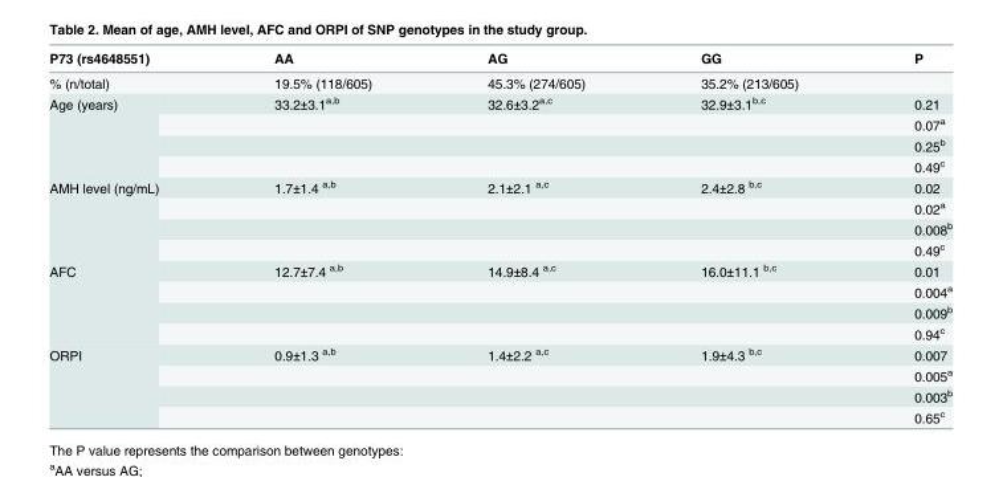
<table><thead><tr><td>P73 (rs4648551)</td><td>AA</td><td>AG</td><td>GG</td><td>P</td></tr></thead><tbody><tr><td>% (n/total)</td><td>19.5% (118/605)</td><td>45.3% (274/605)</td><td>35.2% (213/605)</td><td></td></tr><tr><td rowspan="4">Age (years)</td><td>33.2±3.1<sup>a,b</sup></td><td>32.6±3.2<sup>a,c</sup></td><td>32.9±3.1<sup>b,c</sup></td><td>0.21</td></tr><tr><td></td><td></td><td></td><td>0.07<sup>a</sup></td></tr><tr><td></td><td></td><td></td><td>0.25<sup>b</sup></td></tr><tr><td></td><td></td><td></td><td>0.49<sup>c</sup></td></tr><tr><td rowspan="4">AMH level (ng/mL)</td><td>1.7±1.4 <sup>a,b</sup></td><td>2.1±2.1 <sup>a,c</sup></td><td>2.4±2.8 <sup>b,c</sup></td><td>0.02</td></tr><tr><td></td><td></td><td></td><td>0.02<sup>a</sup></td></tr><tr><td></td><td></td><td></td><td>0.008<sup>b</sup></td></tr><tr><td></td><td></td><td></td><td>0.49<sup>c</sup></td></tr><tr><td rowspan="4">AFC</td><td>12.7±7.4 <sup>a,b</sup></td><td>14.9±8.4 <sup>a,c</sup></td><td>16.0±11.1 <sup>b,c</sup></td><td>0.01</td></tr><tr><td></td><td></td><td></td><td>0.004<sup>a</sup></td></tr><tr><td></td><td></td><td></td><td>0.009<sup>b</sup></td></tr><tr><td></td><td></td><td></td><td>0.94<sup>c</sup></td></tr><tr><td rowspan="4">ORPI</td><td>0.9±1.3 <sup>a,b</sup></td><td>1.4±2.2 <sup>a,c</sup></td><td>1.9±4.3 <sup>b,c</sup></td><td>0.007</td></tr><tr><td></td><td></td><td></td><td>0.005<sup>a</sup></td></tr><tr><td></td><td></td><td></td><td>0.003<sup>b</sup></td></tr><tr><td></td><td></td><td></td><td>0.65<sup>c</sup></td></tr></tbody></table>